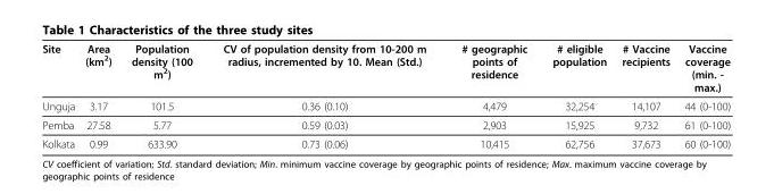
<table><thead><tr><td>Site</td><td>Area (km<sup>2</sup>)</td><td>Population density (100 m<sup>2</sup>)</td><td>CV of population density from 10-200 m radius, incremented by 10. Mean (Std.)</td><td># geographic points of residence</td><td># eligible population</td><td># Vaccine recipients</td><td>Vaccine coverage (min. - max.)</td></tr></thead><tbody><tr><td>Unguja</td><td>3.17</td><td>101.5</td><td>0.36 (0.10)</td><td>4,479</td><td>32,254</td><td>14,107</td><td>44 (0-100)</td></tr><tr><td>Pemba</td><td>27.58</td><td>5.77</td><td>0.59 (0.03)</td><td>2,903</td><td>15,925</td><td>9,732</td><td>61 (0-100)</td></tr><tr><td>Kolkata</td><td>0.99</td><td>633.90</td><td>0.73 (0.06)</td><td>10,415</td><td>62,756</td><td>37,673</td><td>60 (0-100)</td></tr></tbody></table>